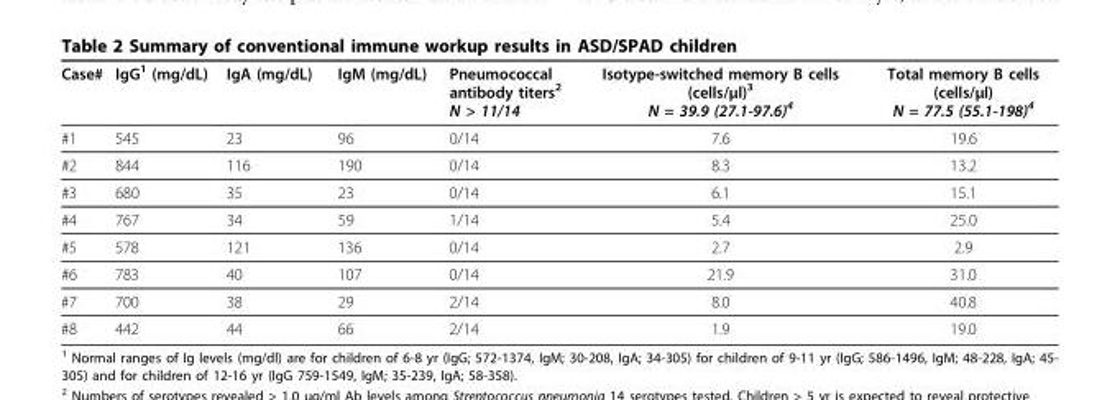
<table><thead><tr><td>Case#</td><td>IgG<sup>1</sup> (mg/dL)</td><td>IgA (mg/dL)</td><td>IgM (mg/dL)</td><td>Pneumococcal antibody titers<sup>2</sup> N &gt; 11/14</td><td>Isotype-switched memory B cells (cells/μl)<sup>3</sup> N = 39.9 (27.1-97.6)<sup>4</sup></td><td>Total memory B cells (cells/μl) N = 77.5 (55.1-198)<sup>4</sup></td></tr></thead><tbody><tr><td>#1</td><td>545</td><td>23</td><td>96</td><td>0/14</td><td>7.6</td><td>19.6</td></tr><tr><td>#2</td><td>844</td><td>116</td><td>190</td><td>0/14</td><td>8.3</td><td>13.2</td></tr><tr><td>#3</td><td>680</td><td>35</td><td>23</td><td>0/14</td><td>6.1</td><td>15.1</td></tr><tr><td>#4</td><td>767</td><td>34</td><td>59</td><td>1/14</td><td>5.4</td><td>25.0</td></tr><tr><td>#5</td><td>578</td><td>121</td><td>136</td><td>0/14</td><td>2.7</td><td>2.9</td></tr><tr><td>#6</td><td>783</td><td>40</td><td>107</td><td>0/14</td><td>21.9</td><td>31.0</td></tr><tr><td>#7</td><td>700</td><td>38</td><td>29</td><td>2/14</td><td>8.0</td><td>40.8</td></tr><tr><td>#8</td><td>442</td><td>44</td><td>66</td><td>2/14</td><td>1.9</td><td>19.0</td></tr></tbody></table>